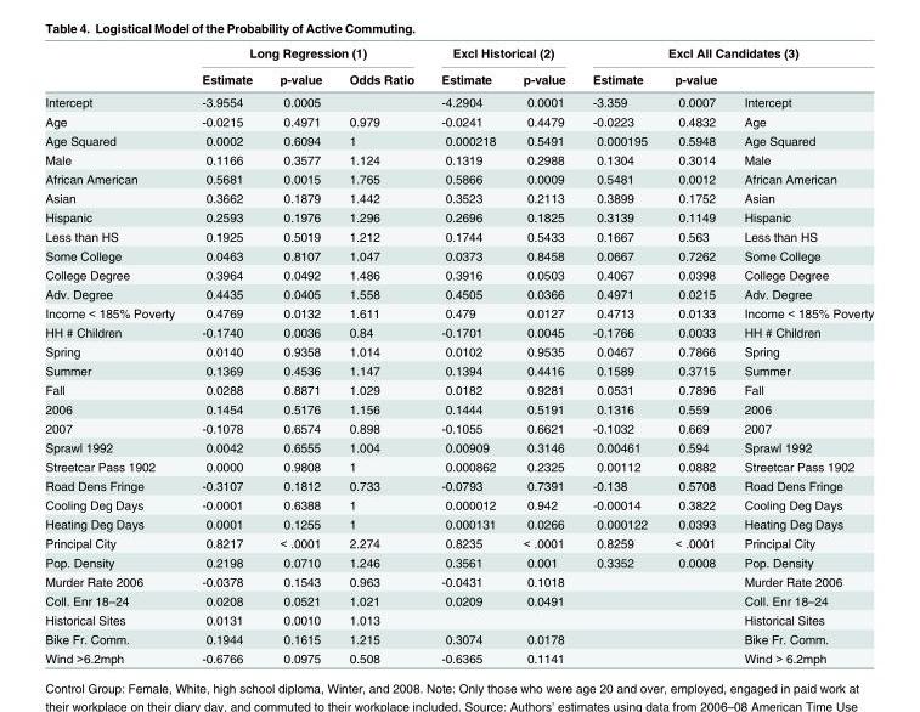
<table><thead><tr><td rowspan="2"></td><td colspan="3">Long Regression (1)</td><td colspan="2">Excl Historical (2)</td><td colspan="3">Excl All Candidates (3)</td></tr><tr><td>Estimate</td><td>p-value</td><td>Odds Ratio</td><td>Estimate</td><td>p-value</td><td>Estimate</td><td>p-value</td><td></td></tr></thead><tbody><tr><td>Intercept</td><td>-3.9554</td><td>0.0005</td><td></td><td>-4.2904</td><td>0.0001</td><td>-3.359</td><td>0.0007</td><td>Intercept</td></tr><tr><td>Age</td><td>-0.0215</td><td>0.4971</td><td>0.979</td><td>-0.0241</td><td>0.4479</td><td>-0.0223</td><td>0.4832</td><td>Age</td></tr><tr><td>Age Squared</td><td>0.0002</td><td>0.6094</td><td>1</td><td>0.000218</td><td>0.5491</td><td>0.000195</td><td>0.5948</td><td>Age Squared</td></tr><tr><td>Male</td><td>0.1166</td><td>0.3577</td><td>1.124</td><td>0.1319</td><td>0.2988</td><td>0.1304</td><td>0.3014</td><td>Male</td></tr><tr><td>African American</td><td>0.5681</td><td>0.0015</td><td>1.765</td><td>0.5866</td><td>0.0009</td><td>0.5481</td><td>0.0012</td><td>African American</td></tr><tr><td>Asian</td><td>0.3662</td><td>0.1879</td><td>1.442</td><td>0.3523</td><td>0.2113</td><td>0.3899</td><td>0.1752</td><td>Asian</td></tr><tr><td>Hispanic</td><td>0.2593</td><td>0.1976</td><td>1.296</td><td>0.2696</td><td>0.1825</td><td>0.3139</td><td>0.1149</td><td>Hispanic</td></tr><tr><td>Less than HS</td><td>0.1925</td><td>0.5019</td><td>1.212</td><td>0.1744</td><td>0.5433</td><td>0.1667</td><td>0.563</td><td>Less than HS</td></tr><tr><td>Some College</td><td>0.0463</td><td>0.8107</td><td>1.047</td><td>0.0373</td><td>0.8458</td><td>0.0667</td><td>0.7262</td><td>Some College</td></tr><tr><td>College Degree</td><td>0.3964</td><td>0.0492</td><td>1.486</td><td>0.3916</td><td>0.0503</td><td>0.4067</td><td>0.0398</td><td>College Degree</td></tr><tr><td>Adv. Degree</td><td>0.4435</td><td>0.0405</td><td>1.558</td><td>0.4505</td><td>0.0366</td><td>0.4971</td><td>0.0215</td><td>Adv. Degree</td></tr><tr><td>Income &lt; 185% Poverty</td><td>0.4769</td><td>0.0132</td><td>1.611</td><td>0.479</td><td>0.0127</td><td>0.4713</td><td>0.0133</td><td>Income &lt; 185% Poverty</td></tr><tr><td>HH # Children</td><td>-0.1740</td><td>0.0036</td><td>0.84</td><td>-0.1701</td><td>0.0045</td><td>-0.1766</td><td>0.0033</td><td>HH # Children</td></tr><tr><td>Spring</td><td>0.0140</td><td>0.9358</td><td>1.014</td><td>0.0102</td><td>0.9535</td><td>0.0467</td><td>0.7866</td><td>Spring</td></tr><tr><td>Summer</td><td>0.1369</td><td>0.4536</td><td>1.147</td><td>0.1394</td><td>0.4416</td><td>0.1589</td><td>0.3715</td><td>Summer</td></tr><tr><td>Fall</td><td>0.0288</td><td>0.8871</td><td>1.029</td><td>0.0182</td><td>0.9281</td><td>0.0531</td><td>0.7896</td><td>Fall</td></tr><tr><td>2006</td><td>0.1454</td><td>0.5176</td><td>1.156</td><td>0.1444</td><td>0.5191</td><td>0.1316</td><td>0.559</td><td>2006</td></tr><tr><td>2007</td><td>-0.1078</td><td>0.6574</td><td>0.898</td><td>-0.1055</td><td>0.6621</td><td>-0.1032</td><td>0.669</td><td>2007</td></tr><tr><td>Sprawl 1992</td><td>0.0042</td><td>0.6555</td><td>1.004</td><td>0.00909</td><td>0.3146</td><td>0.00461</td><td>0.594</td><td>Sprawl 1992</td></tr><tr><td>Streetcar Pass 1902</td><td>0.0000</td><td>0.9808</td><td>1</td><td>0.000862</td><td>0.2325</td><td>0.00112</td><td>0.0882</td><td>Streetcar Pass 1902</td></tr><tr><td>Road Dens Fringe</td><td>-0.3107</td><td>0.1812</td><td>0.733</td><td>-0.0793</td><td>0.7391</td><td>-0.138</td><td>0.5708</td><td>Road Dens Fringe</td></tr><tr><td>Cooling Deg Days</td><td>-0.0001</td><td>0.6388</td><td>1</td><td>0.000012</td><td>0.942</td><td>-0.00014</td><td>0.3822</td><td>Cooling Deg Days</td></tr><tr><td>Heating Deg Days</td><td>0.0001</td><td>0.1255</td><td>1</td><td>0.000131</td><td>0.0266</td><td>0.000122</td><td>0.0393</td><td>Heating Deg Days</td></tr><tr><td>Principal City</td><td>0.8217</td><td>&lt; .0001</td><td>2.274</td><td>0.8235</td><td>&lt; .0001</td><td>0.8259</td><td>&lt; .0001</td><td>Principal City</td></tr><tr><td>Pop. Density</td><td>0.2198</td><td>0.0710</td><td>1.246</td><td>0.3561</td><td>0.001</td><td>0.3352</td><td>0.0008</td><td>Pop. Density</td></tr><tr><td>Murder Rate 2006</td><td>-0.0378</td><td>0.1543</td><td>0.963</td><td>-0.0431</td><td>0.1018</td><td></td><td></td><td>Murder Rate 2006</td></tr><tr><td>Coll. Enr 18–24</td><td>0.0208</td><td>0.0521</td><td>1.021</td><td>0.0209</td><td>0.0491</td><td></td><td></td><td>Coll. Enr 18–24</td></tr><tr><td>Historical Sites</td><td>0.0131</td><td>0.0010</td><td>1.013</td><td></td><td></td><td></td><td></td><td>Historical Sites</td></tr><tr><td>Bike Fr. Comm.</td><td>0.1944</td><td>0.1615</td><td>1.215</td><td>0.3074</td><td>0.0178</td><td></td><td></td><td>Bike Fr. Comm.</td></tr><tr><td>Wind &gt;6.2mph</td><td>-0.6766</td><td>0.0975</td><td>0.508</td><td>-0.6365</td><td>0.1141</td><td></td><td></td><td>Wind &gt; 6.2mph</td></tr></tbody></table>